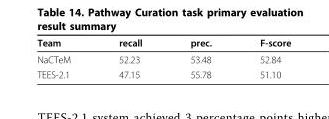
<table><thead><tr><td>Team</td><td>recall</td><td>prec.</td><td>F-score</td></tr></thead><tbody><tr><td>NaCTeM</td><td>52.23</td><td>53.48</td><td>52.84</td></tr><tr><td>TEES-2.1</td><td>47.15</td><td>55.78</td><td>51.10</td></tr></tbody></table>